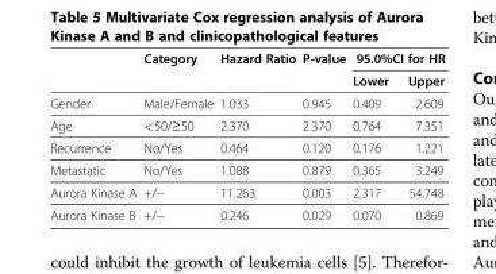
<table><thead><tr><td rowspan="2"></td><td rowspan="2">Category</td><td rowspan="2">Hazard Ratio</td><td rowspan="2">P-value</td><td colspan="2">95.0%CI for HR</td></tr><tr><td>Lower</td><td>Upper</td></tr></thead><tbody><tr><td>Gender</td><td>Male/Female</td><td>1.033</td><td>0.945</td><td>0.409</td><td>2.609</td></tr><tr><td>Age</td><td>&lt;50/≥50</td><td>2.370</td><td>2.370</td><td>0.764</td><td>7.351</td></tr><tr><td>Recurrence</td><td>No/Yes</td><td>0.464</td><td>0.120</td><td>0.176</td><td>1.221</td></tr><tr><td>Metastatic</td><td>No/Yes</td><td>1.088</td><td>0.879</td><td>0.365</td><td>3.249</td></tr><tr><td>Aurora Kinase A</td><td>+/−</td><td>11.263</td><td>0.003</td><td>2.317</td><td>54.748</td></tr><tr><td>Aurora Kinase B</td><td>+/−</td><td>0.246</td><td>0.029</td><td>0.070</td><td>0.869</td></tr></tbody></table>